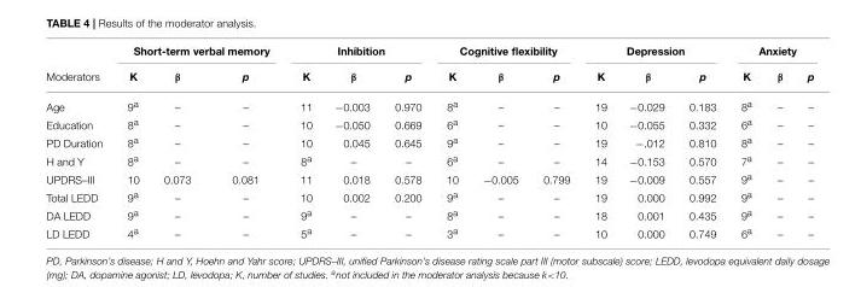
<table><thead><tr><td rowspan="2">Moderators</td><td colspan="3">Short-term verbal memory</td><td colspan="3">Inhibition</td><td colspan="3">Cognitive flexibility</td><td colspan="3">Depression</td><td colspan="3">Anxiety</td></tr><tr><td>K</td><td>β</td><td>p</td><td>K</td><td>β</td><td>p</td><td>K</td><td>β</td><td>p</td><td>K</td><td>β</td><td>p</td><td>K</td><td>β</td><td>p</td></tr></thead><tbody><tr><td>Age</td><td>9<sup>a</sup></td><td>–</td><td>–</td><td>11</td><td>−0.003</td><td>0.970</td><td>8<sup>a</sup></td><td>–</td><td>–</td><td>19</td><td>−0.029</td><td>0.183</td><td>8<sup>a</sup></td><td>–</td><td>–</td></tr><tr><td>Education</td><td>8<sup>a</sup></td><td>–</td><td>–</td><td>10</td><td>−0.050</td><td>0.669</td><td>6<sup>a</sup></td><td>–</td><td>–</td><td>10</td><td>−0.055</td><td>0.332</td><td>6<sup>a</sup></td><td>–</td><td>–</td></tr><tr><td>PD Duration</td><td>8<sup>a</sup></td><td>–</td><td>–</td><td>10</td><td>0.045</td><td>0.645</td><td>9<sup>a</sup></td><td>–</td><td>–</td><td>19</td><td>−.012</td><td>0.810</td><td>8<sup>a</sup></td><td>–</td><td>–</td></tr><tr><td>H and Y</td><td>8<sup>a</sup></td><td>–</td><td>–</td><td>8<sup>a</sup></td><td>–</td><td>–</td><td>6<sup>a</sup></td><td>–</td><td>–</td><td>14</td><td>−0.153</td><td>0.570</td><td>7<sup>a</sup></td><td>–</td><td>–</td></tr><tr><td>UPDRS–III</td><td>10</td><td>0.073</td><td>0.081</td><td>11</td><td>0.018</td><td>0.578</td><td>10</td><td>−0.005</td><td>0.799</td><td>19</td><td>−0.009</td><td>0.557</td><td>9<sup>a</sup></td><td>–</td><td>–</td></tr><tr><td>Total LEDD</td><td>9<sup>a</sup></td><td>–</td><td>–</td><td>10</td><td>0.002</td><td>0.200</td><td>9<sup>a</sup></td><td>–</td><td>–</td><td>19</td><td>0.000</td><td>0.992</td><td>9<sup>a</sup></td><td>–</td><td>–</td></tr><tr><td>DA LEDD</td><td>9<sup>a</sup></td><td>–</td><td>–</td><td>9<sup>a</sup></td><td>–</td><td>–</td><td>8<sup>a</sup></td><td>–</td><td>–</td><td>18</td><td>0.001</td><td>0.435</td><td>9<sup>a</sup></td><td>–</td><td>–</td></tr><tr><td>LD LEDD</td><td>4<sup>a</sup></td><td>–</td><td>–</td><td>5<sup>a</sup></td><td>–</td><td>–</td><td>3<sup>a</sup></td><td>–</td><td>–</td><td>10</td><td>0.000</td><td>0.749</td><td>6<sup>a</sup></td><td>–</td><td>–</td></tr></tbody></table>